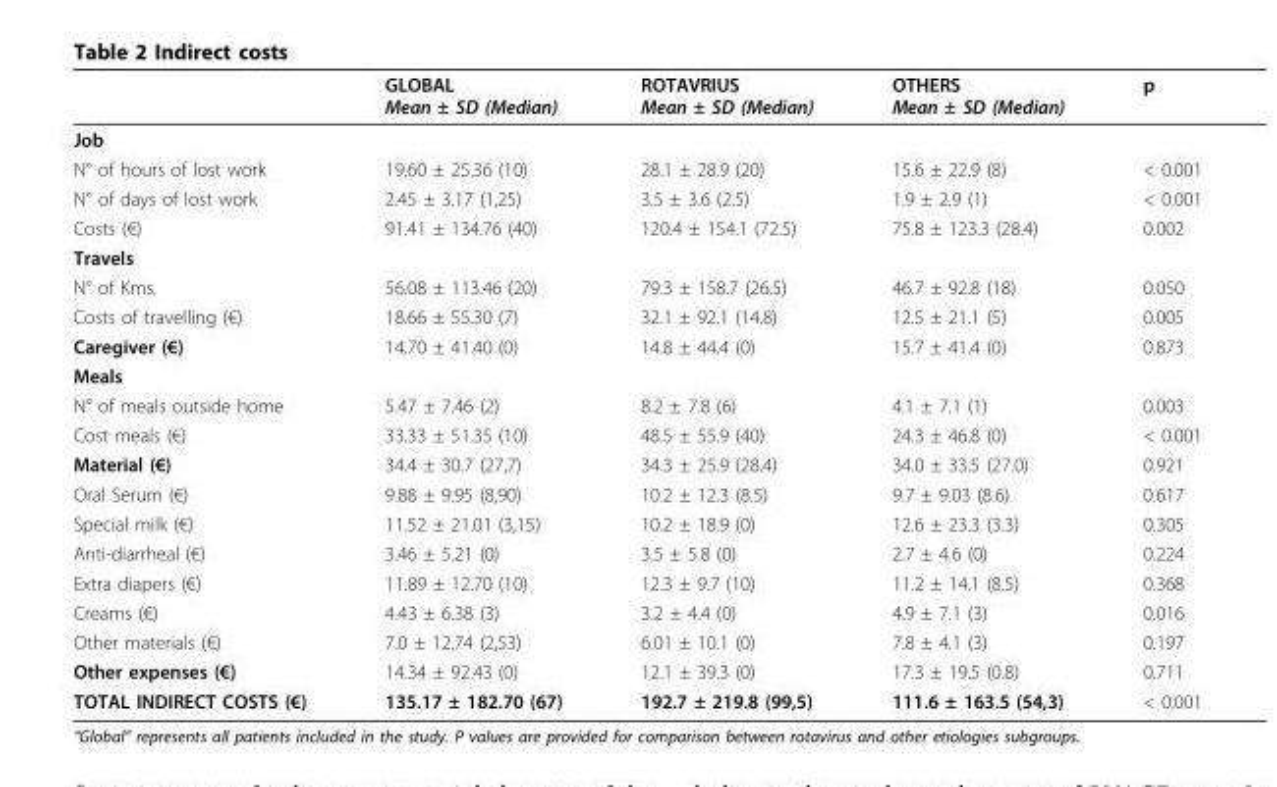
<table><thead><tr><td></td><td>GLOBAL Mean ± SD (Median)</td><td>ROTAVRIUS Mean ± SD (Median)</td><td>OTHERS Mean ± SD (Median)</td><td>p</td></tr></thead><tbody><tr><td colspan="5">Job</td></tr><tr><td>N° of hours of lost work</td><td>19.60 ± 25.36 (10)</td><td>28.1 ± 28.9 (20)</td><td>15.6 ± 22.9 (8)</td><td>&lt; 0.001</td></tr><tr><td>N° of days of lost work</td><td>2.45 ± 3.17 (1,25)</td><td>3.5 ± 3.6 (2.5)</td><td>1.9 ± 2.9 (1)</td><td>&lt; 0.001</td></tr><tr><td>Costs (€)</td><td>91.41 ± 134.76 (40)</td><td>120.4 ± 154.1 (72.5)</td><td>75.8 ± 123.3 (28.4)</td><td>0.002</td></tr><tr><td colspan="5">Travels</td></tr><tr><td>N° of Kms.</td><td>56.08 ± 113.46 (20)</td><td>79.3 ± 158.7 (26.5)</td><td>46.7 ± 92.8 (18)</td><td>0.050</td></tr><tr><td>Costs of travelling (€)</td><td>18.66 ± 55.30 (7)</td><td>32.1 ± 92.1 (14.8)</td><td>12.5 ± 21.1 (5)</td><td>0.005</td></tr><tr><td>Caregiver (€)</td><td>14.70 ± 41.40 (0)</td><td>14.8 ± 44.4 (0)</td><td>15.7 ± 41.4 (0)</td><td>0.873</td></tr><tr><td colspan="5">Meals</td></tr><tr><td>N° of meals outside home</td><td>5.47 ± 7.46 (2)</td><td>8.2 ± 7.8 (6)</td><td>4.1 ± 7.1 (1)</td><td>0.003</td></tr><tr><td>Cost meals (€)</td><td>33.33 ± 51.35 (10)</td><td>48.5 ± 55.9 (40)</td><td>24.3 ± 46.8 (0)</td><td>&lt; 0.001</td></tr><tr><td>Material (€)</td><td>34.4 ± 30.7 (27,7)</td><td>34.3 ± 25.9 (28.4)</td><td>34.0 ± 33.5 (27.0)</td><td>0.921</td></tr><tr><td>Oral Serum (€)</td><td>9.88 ± 9.95 (8,90)</td><td>10.2 ± 12.3 (8.5)</td><td>9.7 ± 9.03 (8.6)</td><td>0.617</td></tr><tr><td>Special milk (€)</td><td>11.52 ± 21.01 (3,15)</td><td>10.2 ± 18.9 (0)</td><td>12.6 ± 23.3 (3.3)</td><td>0.305</td></tr><tr><td>Anti-diarrheal (€)</td><td>3.46 ± 5.21 (0)</td><td>3.5 ± 5.8 (0)</td><td>2.7 ± 4.6 (0)</td><td>0.224</td></tr><tr><td>Extra diapers (€)</td><td>11.89 ± 12.70 (10)</td><td>12.3 ± 9.7 (10)</td><td>11.2 ± 14.1 (8.5)</td><td>0.368</td></tr><tr><td>Creams (€)</td><td>4.43 ± 6.38 (3)</td><td>3.2 ± 4.4 (0)</td><td>4.9 ± 7.1 (3)</td><td>0.016</td></tr><tr><td>Other materials (€)</td><td>7.0 ± 12.74 (2,53)</td><td>6.01 ± 10.1 (0)</td><td>7.8 ± 4.1 (3)</td><td>0.197</td></tr><tr><td>Other expenses (€)</td><td>14.34 ± 92.43 (0)</td><td>12.1 ± 39.3 (0)</td><td>17.3 ± 19.5 (0.8)</td><td>0.711</td></tr><tr><td>TOTAL INDIRECT COSTS (€)</td><td>135.17 ± 182.70 (67)</td><td>192.7 ± 219.8 (99,5)</td><td>111.6 ± 163.5 (54,3)</td><td>&lt; 0.001</td></tr></tbody></table>